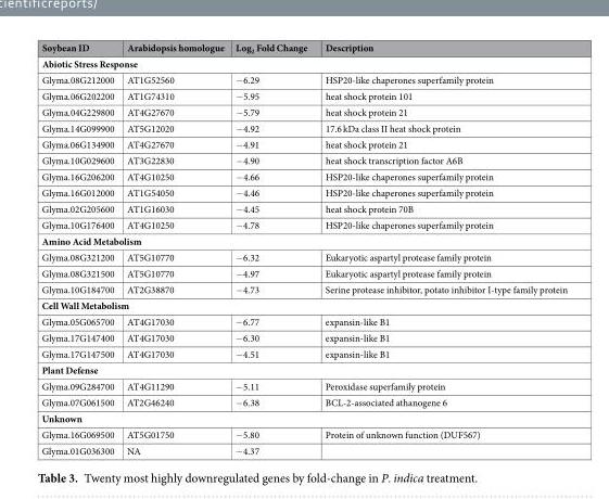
<table><thead><tr><td>Soybean ID</td><td>Arabidopsis homologue</td><td>Log<sub>2</sub> Fold Change</td><td>Description</td></tr></thead><tbody><tr><td colspan="4">Abiotic Stress Response</td></tr><tr><td>Glyma.08G212000</td><td>AT1G52560</td><td>-6.29</td><td>HSP20-like chaperones superfamily protein</td></tr><tr><td>Glyma.06G202200</td><td>AT1G74310</td><td>-5.95</td><td>heat shock protein 101</td></tr><tr><td>Glyma.04G229800</td><td>AT4G27670</td><td>-5.79</td><td>heat shock protein 21</td></tr><tr><td>Glyma.14G099900</td><td>AT5G12020</td><td>-4.92</td><td>17.6 kDa class II heat shock protein</td></tr><tr><td>Glyma.06G134900</td><td>AT4G27670</td><td>-4.91</td><td>heat shock protein 21</td></tr><tr><td>Glyma.10G029600</td><td>AT3G22830</td><td>-4.90</td><td>heat shock transcription factor A6B</td></tr><tr><td>Glyma.16G206200</td><td>AT4G10250</td><td>-4.66</td><td>HSP20-like chaperones superfamily protein</td></tr><tr><td>Glyma.16G012000</td><td>AT1G54050</td><td>-4.46</td><td>HSP20-like chaperones superfamily protein</td></tr><tr><td>Glyma.02G205600</td><td>AT1G16030</td><td>-4.45</td><td>heat shock protein 70B</td></tr><tr><td>Glyma.10G176400</td><td>AT4G10250</td><td>-4.78</td><td>HSP20-like chaperones superfamily protein</td></tr><tr><td colspan="4">Amino Acid Metabolism</td></tr><tr><td>Glyma.08G321200</td><td>AT5G10770</td><td>-6.32</td><td>Eukaryotic aspartyl protease family protein</td></tr><tr><td>Glyma.08G321500</td><td>AT5G10770</td><td>-4.97</td><td>Eukaryotic aspartyl protease family protein</td></tr><tr><td>Glyma.10G184700</td><td>AT2G38870</td><td>-4.73</td><td>Serine protease inhibitor, potato inhibitor I-type family protein</td></tr><tr><td colspan="4">Cell Wall Metabolism</td></tr><tr><td>Glyma.05G065700</td><td>AT4G17030</td><td>-6.77</td><td>expansin-like B1</td></tr><tr><td>Glyma.17G147400</td><td>AT4G17030</td><td>-6.30</td><td>expansin-like B1</td></tr><tr><td>Glyma.17G147500</td><td>AT4G17030</td><td>-4.51</td><td>expansin-like B1</td></tr><tr><td colspan="4">Plant Defense</td></tr><tr><td>Glyma.09G284700</td><td>AT4G11290</td><td>-5.11</td><td>Peroxidase superfamily protein</td></tr><tr><td>Glyma.07G061500</td><td>AT2G46240</td><td>-6.38</td><td>BCL-2-associated athanogene 6</td></tr><tr><td colspan="4">Unknown</td></tr><tr><td>Glyma.16G069500</td><td>AT5G01750</td><td>-5.80</td><td>Protein of unknown function (DUF567)</td></tr><tr><td>Glyma.01G036300</td><td>NA</td><td>-4.37</td><td></td></tr></tbody></table>